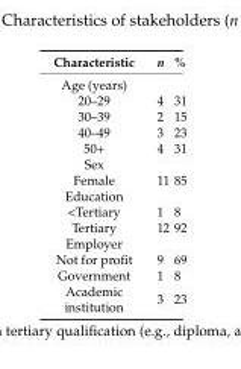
<table><thead><tr><td>Characteristic</td><td>n</td><td>%</td></tr></thead><tbody><tr><td colspan="3">Age (years)</td></tr><tr><td>20–29</td><td>4</td><td>31</td></tr><tr><td>30–39</td><td>2</td><td>15</td></tr><tr><td>40–49</td><td>3</td><td>23</td></tr><tr><td>50+</td><td>4</td><td>31</td></tr><tr><td colspan="3">Sex</td></tr><tr><td>Female</td><td>11</td><td>85</td></tr><tr><td colspan="3">Education</td></tr><tr><td>&lt;Tertiary</td><td>1</td><td>8</td></tr><tr><td>Tertiary</td><td>12</td><td>92</td></tr><tr><td colspan="3">Employer</td></tr><tr><td>Not for profit</td><td>9</td><td>69</td></tr><tr><td>Government</td><td>1</td><td>8</td></tr><tr><td>Academic institution</td><td>3</td><td>23</td></tr></tbody></table>